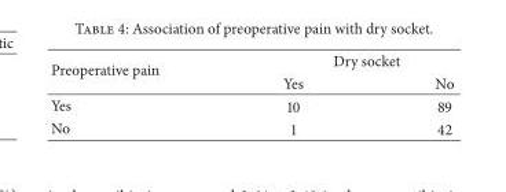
<table><thead><tr><td rowspan="2">Preoperative pain</td><td colspan="2">Dry socket</td></tr><tr><td>Yes</td><td>No</td></tr></thead><tbody><tr><td>Yes</td><td>10</td><td>89</td></tr><tr><td>No</td><td>1</td><td>42</td></tr></tbody></table>